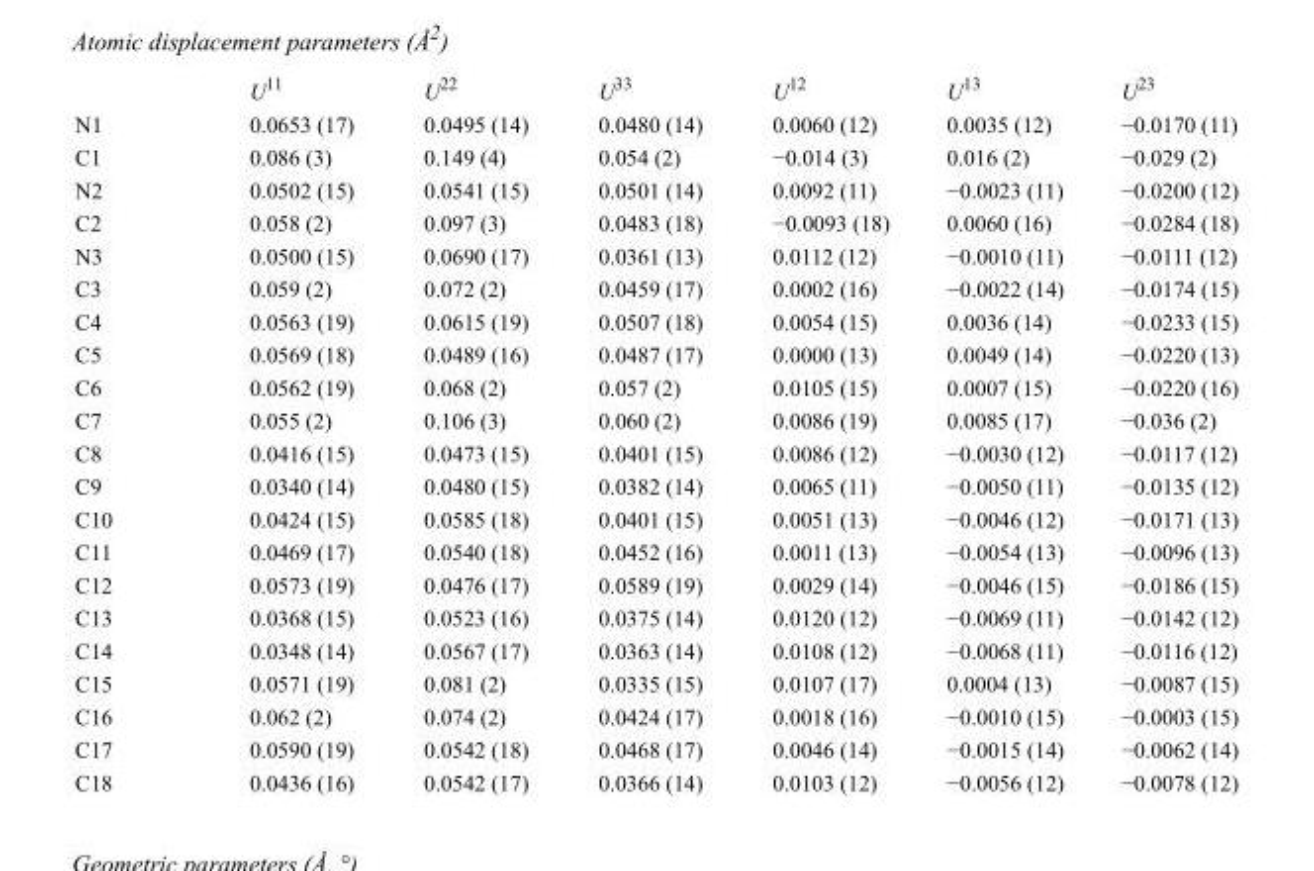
<table><thead><tr><td></td><td>U<sup>11</sup></td><td>U<sup>22</sup></td><td>U<sup>33</sup></td><td>U<sup>12</sup></td><td>U<sup>13</sup></td><td>U<sup>23</sup></td></tr></thead><tbody><tr><td>N1</td><td>0.0653 (17)</td><td>0.0495 (14)</td><td>0.0480 (14)</td><td>0.0060 (12)</td><td>0.0035 (12)</td><td>−0.0170 (11)</td></tr><tr><td>C1</td><td>0.086 (3)</td><td>0.149 (4)</td><td>0.054 (2)</td><td>−0.014 (3)</td><td>0.016 (2)</td><td>−0.029 (2)</td></tr><tr><td>N2</td><td>0.0502 (15)</td><td>0.0541 (15)</td><td>0.0501 (14)</td><td>0.0092 (11)</td><td>−0.0023 (11)</td><td>−0.0200 (12)</td></tr><tr><td>C2</td><td>0.058 (2)</td><td>0.097 (3)</td><td>0.0483 (18)</td><td>−0.0093 (18)</td><td>0.0060 (16)</td><td>−0.0284 (18)</td></tr><tr><td>N3</td><td>0.0500 (15)</td><td>0.0690 (17)</td><td>0.0361 (13)</td><td>0.0112 (12)</td><td>−0.0010 (11)</td><td>−0.0111 (12)</td></tr><tr><td>C3</td><td>0.059 (2)</td><td>0.072 (2)</td><td>0.0459 (17)</td><td>0.0002 (16)</td><td>−0.0022 (14)</td><td>−0.0174 (15)</td></tr><tr><td>C4</td><td>0.0563 (19)</td><td>0.0615 (19)</td><td>0.0507 (18)</td><td>0.0054 (15)</td><td>0.0036 (14)</td><td>−0.0233 (15)</td></tr><tr><td>C5</td><td>0.0569 (18)</td><td>0.0489 (16)</td><td>0.0487 (17)</td><td>0.0000 (13)</td><td>0.0049 (14)</td><td>−0.0220 (13)</td></tr><tr><td>C6</td><td>0.0562 (19)</td><td>0.068 (2)</td><td>0.057 (2)</td><td>0.0105 (15)</td><td>0.0007 (15)</td><td>−0.0220 (16)</td></tr><tr><td>C7</td><td>0.055 (2)</td><td>0.106 (3)</td><td>0.060 (2)</td><td>0.0086 (19)</td><td>0.0085 (17)</td><td>−0.036 (2)</td></tr><tr><td>C8</td><td>0.0416 (15)</td><td>0.0473 (15)</td><td>0.0401 (15)</td><td>0.0086 (12)</td><td>−0.0030 (12)</td><td>−0.0117 (12)</td></tr><tr><td>C9</td><td>0.0340 (14)</td><td>0.0480 (15)</td><td>0.0382 (14)</td><td>0.0065 (11)</td><td>−0.0050 (11)</td><td>−0.0135 (12)</td></tr><tr><td>C10</td><td>0.0424 (15)</td><td>0.0585 (18)</td><td>0.0401 (15)</td><td>0.0051 (13)</td><td>−0.0046 (12)</td><td>−0.0171 (13)</td></tr><tr><td>C11</td><td>0.0469 (17)</td><td>0.0540 (18)</td><td>0.0452 (16)</td><td>0.0011 (13)</td><td>−0.0054 (13)</td><td>−0.0096 (13)</td></tr><tr><td>C12</td><td>0.0573 (19)</td><td>0.0476 (17)</td><td>0.0589 (19)</td><td>0.0029 (14)</td><td>−0.0046 (15)</td><td>−0.0186 (15)</td></tr><tr><td>C13</td><td>0.0368 (15)</td><td>0.0523 (16)</td><td>0.0375 (14)</td><td>0.0120 (12)</td><td>−0.0069 (11)</td><td>−0.0142 (12)</td></tr><tr><td>C14</td><td>0.0348 (14)</td><td>0.0567 (17)</td><td>0.0363 (14)</td><td>0.0108 (12)</td><td>−0.0068 (11)</td><td>−0.0116 (12)</td></tr><tr><td>C15</td><td>0.0571 (19)</td><td>0.081 (2)</td><td>0.0335 (15)</td><td>0.0107 (17)</td><td>0.0004 (13)</td><td>−0.0087 (15)</td></tr><tr><td>C16</td><td>0.062 (2)</td><td>0.074 (2)</td><td>0.0424 (17)</td><td>0.0018 (16)</td><td>−0.0010 (15)</td><td>−0.0003 (15)</td></tr><tr><td>C17</td><td>0.0590 (19)</td><td>0.0542 (18)</td><td>0.0468 (17)</td><td>0.0046 (14)</td><td>−0.0015 (14)</td><td>−0.0062 (14)</td></tr><tr><td>C18</td><td>0.0436 (16)</td><td>0.0542 (17)</td><td>0.0366 (14)</td><td>0.0103 (12)</td><td>−0.0056 (12)</td><td>−0.0078 (12)</td></tr></tbody></table>